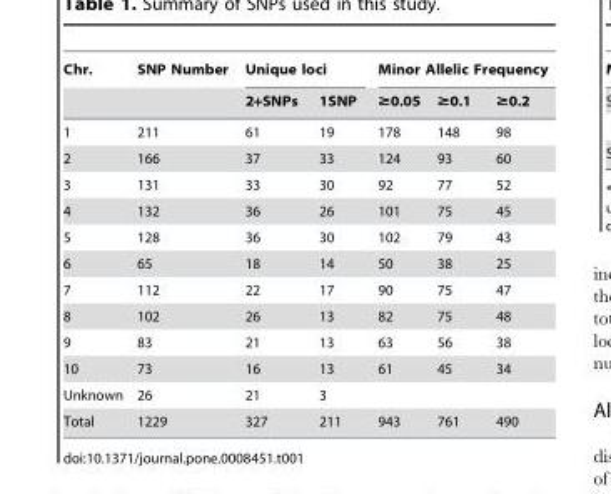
<table><thead><tr><td rowspan="2">Chr.</td><td rowspan="2">SNP Number</td><td colspan="2">Unique loci</td><td colspan="3">Minor Allelic Frequency</td></tr><tr><td>2+SNPs</td><td>1SNP</td><td>≥0.05</td><td>≥0.1</td><td>≥0.2</td></tr></thead><tbody><tr><td>1</td><td>211</td><td>61</td><td>19</td><td>178</td><td>148</td><td>98</td></tr><tr><td>2</td><td>166</td><td>37</td><td>33</td><td>124</td><td>93</td><td>60</td></tr><tr><td>3</td><td>131</td><td>33</td><td>30</td><td>92</td><td>77</td><td>52</td></tr><tr><td>4</td><td>132</td><td>36</td><td>26</td><td>101</td><td>75</td><td>45</td></tr><tr><td>5</td><td>128</td><td>36</td><td>30</td><td>102</td><td>79</td><td>43</td></tr><tr><td>6</td><td>65</td><td>18</td><td>14</td><td>50</td><td>38</td><td>25</td></tr><tr><td>7</td><td>112</td><td>22</td><td>17</td><td>90</td><td>75</td><td>47</td></tr><tr><td>8</td><td>102</td><td>26</td><td>13</td><td>82</td><td>75</td><td>48</td></tr><tr><td>9</td><td>83</td><td>21</td><td>13</td><td>63</td><td>56</td><td>38</td></tr><tr><td>10</td><td>73</td><td>16</td><td>13</td><td>61</td><td>45</td><td>34</td></tr><tr><td>Unknown</td><td>26</td><td>21</td><td>3</td><td></td><td></td><td></td></tr><tr><td>Total</td><td>1229</td><td>327</td><td>211</td><td>943</td><td>761</td><td>490</td></tr></tbody></table>